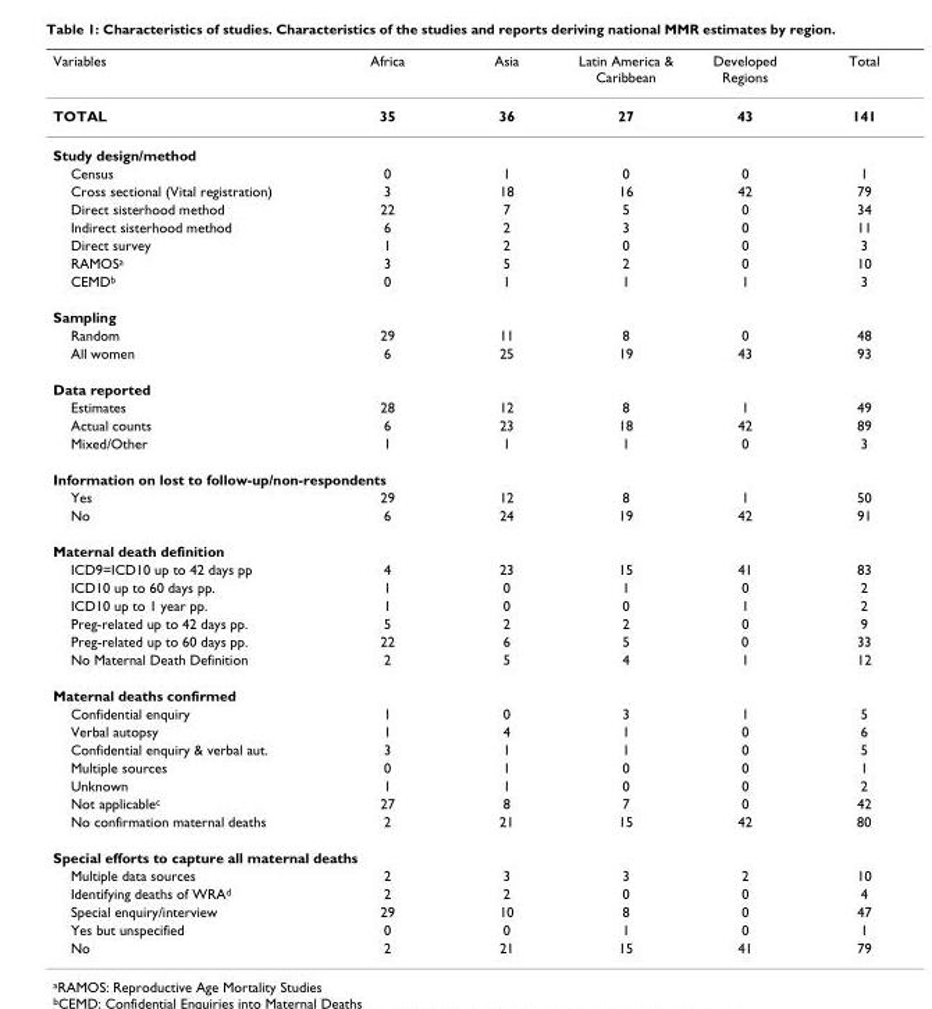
<table><thead><tr><td>Variables</td><td>Africa</td><td>Asia</td><td>Latin America &amp; Caribbean</td><td>Developed Regions</td><td>Total</td></tr></thead><tbody><tr><td>TOTAL</td><td>35</td><td>36</td><td>27</td><td>43</td><td>141</td></tr><tr><td colspan="6">Study design/method</td></tr><tr><td>Census</td><td>0</td><td>1</td><td>0</td><td>0</td><td>1</td></tr><tr><td>Cross sectional (Vital registration)</td><td>3</td><td>18</td><td>16</td><td>42</td><td>79</td></tr><tr><td>Direct sisterhood method</td><td>22</td><td>7</td><td>5</td><td>0</td><td>34</td></tr><tr><td>Indirect sisterhood method</td><td>6</td><td>2</td><td>3</td><td>0</td><td>11</td></tr><tr><td>Direct survey</td><td>1</td><td>2</td><td>0</td><td>0</td><td>3</td></tr><tr><td>RAMOS<sup>a</sup></td><td>3</td><td>5</td><td>2</td><td>0</td><td>10</td></tr><tr><td>CEMD<sup>b</sup></td><td>0</td><td>1</td><td>1</td><td>1</td><td>3</td></tr><tr><td colspan="6">Sampling</td></tr><tr><td>Random</td><td>29</td><td>11</td><td>8</td><td>0</td><td>48</td></tr><tr><td>All women</td><td>6</td><td>25</td><td>19</td><td>43</td><td>93</td></tr><tr><td colspan="6">Data reported</td></tr><tr><td>Estimates</td><td>28</td><td>12</td><td>8</td><td>1</td><td>49</td></tr><tr><td>Actual counts</td><td>6</td><td>23</td><td>18</td><td>42</td><td>89</td></tr><tr><td>Mixed/Other</td><td>1</td><td>1</td><td>1</td><td>0</td><td>3</td></tr><tr><td colspan="6">Information on lost to follow-up/non-respondents</td></tr><tr><td>Yes</td><td>29</td><td>12</td><td>8</td><td>1</td><td>50</td></tr><tr><td>No</td><td>6</td><td>24</td><td>19</td><td>42</td><td>91</td></tr><tr><td colspan="6">Maternal death definition</td></tr><tr><td>ICD9=ICD10 up to 42 days pp</td><td>4</td><td>23</td><td>15</td><td>41</td><td>83</td></tr><tr><td>ICD10 up to 60 days pp.</td><td>1</td><td>0</td><td>1</td><td>0</td><td>2</td></tr><tr><td>ICD10 up to 1 year pp.</td><td>1</td><td>0</td><td>0</td><td>1</td><td>2</td></tr><tr><td>Preg-related up to 42 days pp.</td><td>5</td><td>2</td><td>2</td><td>0</td><td>9</td></tr><tr><td>Preg-related up to 60 days pp.</td><td>22</td><td>6</td><td>5</td><td>0</td><td>33</td></tr><tr><td>No Maternal Death Definition</td><td>2</td><td>5</td><td>4</td><td>1</td><td>12</td></tr><tr><td colspan="6">Maternal deaths confirmed</td></tr><tr><td>Confidential enquiry</td><td>1</td><td>0</td><td>3</td><td>1</td><td>5</td></tr><tr><td>Verbal autopsy</td><td>1</td><td>4</td><td>1</td><td>0</td><td>6</td></tr><tr><td>Confidential enquiry &amp; verbal aut.</td><td>3</td><td>1</td><td>1</td><td>0</td><td>5</td></tr><tr><td>Multiple sources</td><td>0</td><td>1</td><td>0</td><td>0</td><td>1</td></tr><tr><td>Unknown</td><td>1</td><td>1</td><td>0</td><td>0</td><td>2</td></tr><tr><td>Not applicable<sup>c</sup></td><td>27</td><td>8</td><td>7</td><td>0</td><td>42</td></tr><tr><td>No confirmation maternal deaths</td><td>2</td><td>21</td><td>15</td><td>42</td><td>80</td></tr><tr><td colspan="6">Special efforts to capture all maternal deaths</td></tr><tr><td>Multiple data sources</td><td>2</td><td>3</td><td>3</td><td>2</td><td>10</td></tr><tr><td>Identifying deaths of WRA<sup>d</sup></td><td>2</td><td>2</td><td>0</td><td>0</td><td>4</td></tr><tr><td>Special enquiry/interview</td><td>29</td><td>10</td><td>8</td><td>0</td><td>47</td></tr><tr><td>Yes but unspecified</td><td>0</td><td>0</td><td>1</td><td>0</td><td>1</td></tr><tr><td>No</td><td>2</td><td>21</td><td>15</td><td>41</td><td>79</td></tr></tbody></table>